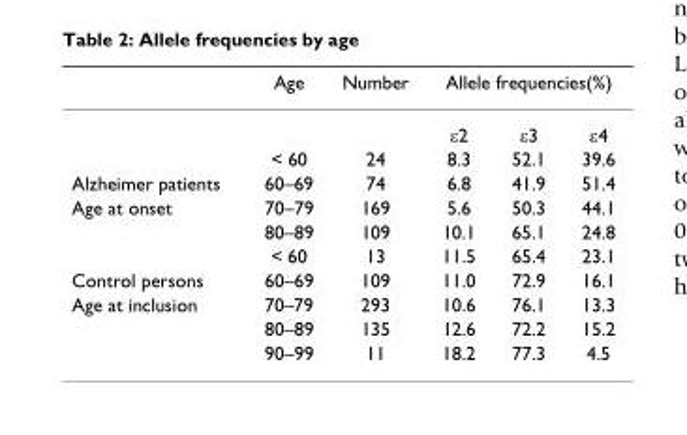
<table><thead><tr><td rowspan="2"></td><td rowspan="2">Age</td><td rowspan="2">Number</td><td colspan="3">Allele frequencies(%)</td></tr><tr><td>ε2</td><td>ε3</td><td>ε4</td></tr></thead><tbody><tr><td></td><td>&lt; 60</td><td>24</td><td>8.3</td><td>52.1</td><td>39.6</td></tr><tr><td>Alzheimer patients</td><td>60–69</td><td>74</td><td>6.8</td><td>41.9</td><td>51.4</td></tr><tr><td rowspan="3">Age at onset</td><td>70–79</td><td>169</td><td>5.6</td><td>50.3</td><td>44.1</td></tr><tr><td>80–89</td><td>109</td><td>10.1</td><td>65.1</td><td>24.8</td></tr><tr><td>&lt; 60</td><td>13</td><td>11.5</td><td>65.4</td><td>23.1</td></tr><tr><td>Control persons</td><td>60–69</td><td>109</td><td>11.0</td><td>72.9</td><td>16.1</td></tr><tr><td rowspan="3">Age at inclusion</td><td>70–79</td><td>293</td><td>10.6</td><td>76.1</td><td>13.3</td></tr><tr><td>80–89</td><td>135</td><td>12.6</td><td>72.2</td><td>15.2</td></tr><tr><td>90–99</td><td>11</td><td>18.2</td><td>77.3</td><td>4.5</td></tr></tbody></table>